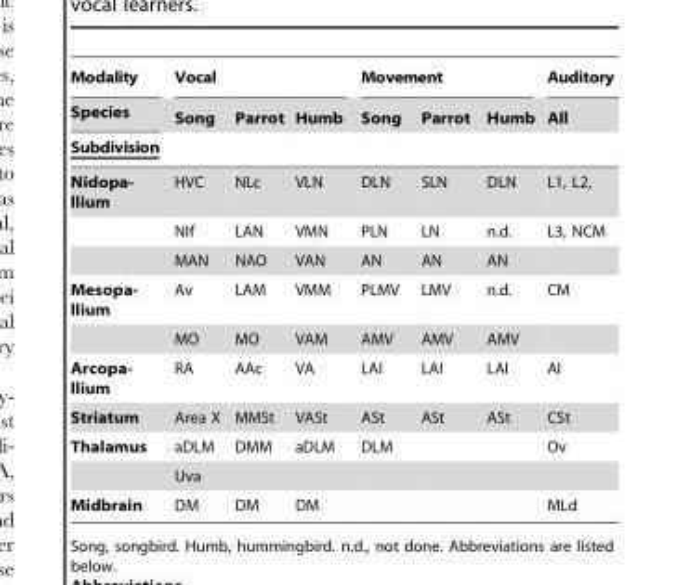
<table><thead><tr><td rowspan="3">Modality Species Subdivision</td><td colspan="3">Vocal</td><td colspan="3">Movement</td><td rowspan="3">Auditory All</td></tr><tr><td rowspan="2">Song</td><td rowspan="2">Parrot</td><td rowspan="2">Humb</td><td rowspan="2">Song</td><td rowspan="2">Parrot</td><td rowspan="2">Humb</td></tr><tr></tr></thead><tbody><tr><td rowspan="3">Nidopa- llium</td><td>HVC</td><td>NLc</td><td>VLN</td><td>DLN</td><td>SLN</td><td>DLN</td><td>L1, L2,</td></tr><tr><td>NIf</td><td>LAN</td><td>VMN</td><td>PLN</td><td>LN</td><td>n.d.</td><td>L3, NCM</td></tr><tr><td>MAN</td><td>NAO</td><td>VAN</td><td>AN</td><td>AN</td><td>AN</td><td></td></tr><tr><td rowspan="2">Mesopa- llium</td><td>Av</td><td>LAM</td><td>VMM</td><td>PLMV</td><td>LMV</td><td>n.d.</td><td>CM</td></tr><tr><td>MO</td><td>MO</td><td>VAM</td><td>AMV</td><td>AMV</td><td>AMV</td><td></td></tr><tr><td>Arcopa- llium</td><td>RA</td><td>AAc</td><td>VA</td><td>LAI</td><td>LAI</td><td>LAI</td><td>AI</td></tr><tr><td>Striatum</td><td>Area X</td><td>MMSt</td><td>VASt</td><td>ASt</td><td>ASt</td><td>ASt</td><td>CSt</td></tr><tr><td rowspan="2">Thalamus</td><td>aDLM</td><td>DMM</td><td>aDLM</td><td>DLM</td><td></td><td></td><td>Ov</td></tr><tr><td>Uva</td><td></td><td></td><td></td><td></td><td></td><td></td></tr><tr><td>Midbrain</td><td>DM</td><td>DM</td><td>DM</td><td></td><td></td><td></td><td>MLd</td></tr></tbody></table>